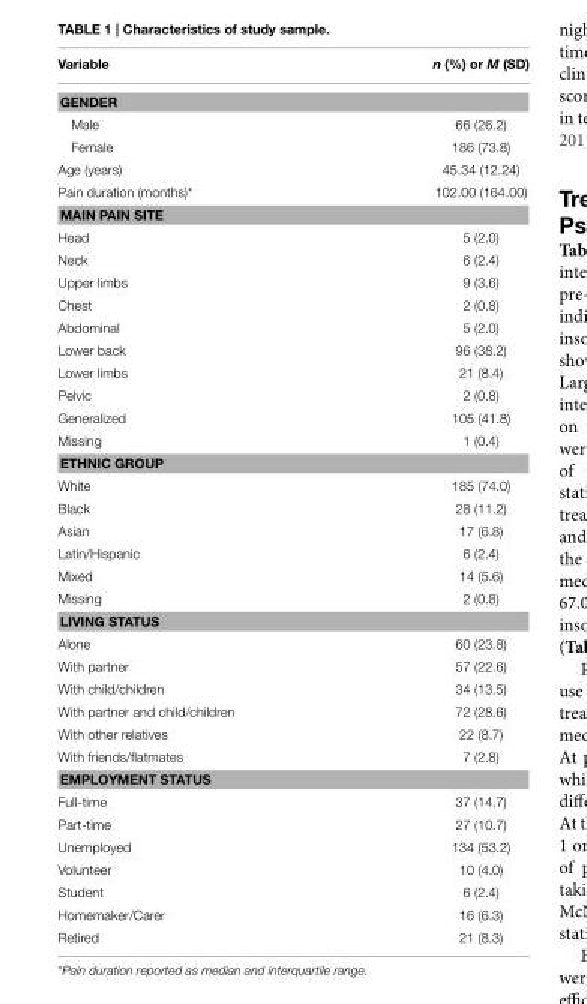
<table><thead><tr><td>Variable</td><td>n (%) or M (SD)</td></tr></thead><tbody><tr><td colspan="2">GENDER</td></tr><tr><td>Male</td><td>66 (26.2)</td></tr><tr><td>Female</td><td>186 (73.8)</td></tr><tr><td>Age (years)</td><td>45.34 (12.24)</td></tr><tr><td>Pain duration (months)*</td><td>102.00 (164.00)</td></tr><tr><td colspan="2">MAIN PAIN SITE</td></tr><tr><td>Head</td><td>5 (2.0)</td></tr><tr><td>Neck</td><td>6 (2.4)</td></tr><tr><td>Upper limbs</td><td>9 (3.6)</td></tr><tr><td>Chest</td><td>2 (0.8)</td></tr><tr><td>Abdominal</td><td>5 (2.0)</td></tr><tr><td>Lower back</td><td>96 (38.2)</td></tr><tr><td>Lower limbs</td><td>21 (8.4)</td></tr><tr><td>Pelvic</td><td>2 (0.8)</td></tr><tr><td>Generalized</td><td>105 (41.8)</td></tr><tr><td>Missing</td><td>1 (0.4)</td></tr><tr><td colspan="2">ETHNIC GROUP</td></tr><tr><td>White</td><td>185 (74.0)</td></tr><tr><td>Black</td><td>28 (11.2)</td></tr><tr><td>Asian</td><td>17 (6.8)</td></tr><tr><td>Latin/Hispanic</td><td>6 (2.4)</td></tr><tr><td>Mixed</td><td>14 (5.6)</td></tr><tr><td>Missing</td><td>2 (0.8)</td></tr><tr><td colspan="2">LIVING STATUS</td></tr><tr><td>Alone</td><td>60 (23.8)</td></tr><tr><td>With partner</td><td>57 (22.6)</td></tr><tr><td>With child/children</td><td>34 (13.5)</td></tr><tr><td>With partner and child/children</td><td>72 (28.6)</td></tr><tr><td>With other relatives</td><td>22 (8.7)</td></tr><tr><td>With friends/flatmates</td><td>7 (2.8)</td></tr><tr><td colspan="2">EMPLOYMENT STATUS</td></tr><tr><td>Full-time</td><td>37 (14.7)</td></tr><tr><td>Part-time</td><td>27 (10.7)</td></tr><tr><td>Unemployed</td><td>134 (53.2)</td></tr><tr><td>Volunteer</td><td>10 (4.0)</td></tr><tr><td>Student</td><td>6 (2.4)</td></tr><tr><td>Homemaker/Carer</td><td>16 (6.3)</td></tr><tr><td>Retired</td><td>21 (8.3)</td></tr></tbody></table>